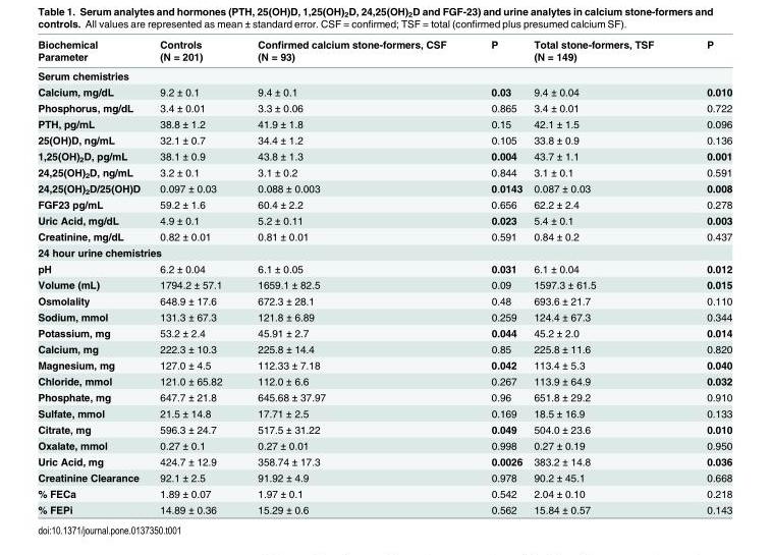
<table><thead><tr><td>Biochemical Parameter</td><td>Controls (N = 201)</td><td>Confirmed calcium stone-formers, CSF (N = 93)</td><td>P</td><td>Total stone-formers, TSF (N = 149)</td><td>P</td></tr></thead><tbody><tr><td colspan="6">Serum chemistries</td></tr><tr><td>Calcium, mg/dL</td><td>9.2 ± 0.1</td><td>9.4 ± 0.1</td><td>0.03</td><td>9.4 ± 0.04</td><td>0.010</td></tr><tr><td>Phosphorus, mg/dL</td><td>3.4 ± 0.01</td><td>3.3 ± 0.06</td><td>0.865</td><td>3.4 ± 0.01</td><td>0.722</td></tr><tr><td>PTH, pg/mL</td><td>38.8 ± 1.2</td><td>41.9 ± 1.8</td><td>0.15</td><td>42.1 ± 1.5</td><td>0.096</td></tr><tr><td>25(OH)D, ng/mL</td><td>32.1 ± 0.7</td><td>34.4 ± 1.2</td><td>0.105</td><td>33.8 ± 0.9</td><td>0.136</td></tr><tr><td>1,25(OH)<sub>2</sub>D, pg/mL</td><td>38.1 ± 0.9</td><td>43.8 ± 1.3</td><td>0.004</td><td>43.7 ± 1.1</td><td>0.001</td></tr><tr><td>24,25(OH)<sub>2</sub>D, ng/mL</td><td>3.2 ± 0.1</td><td>3.1 ± 0.2</td><td>0.844</td><td>3.1 ± 0.1</td><td>0.591</td></tr><tr><td>24,25(OH)<sub>2</sub>D/25(OH)D</td><td>0.097 ± 0.03</td><td>0.088 ± 0.003</td><td>0.0143</td><td>0.087 ± 0.03</td><td>0.008</td></tr><tr><td>FGF23 pg/mL</td><td>59.2 ± 1.6</td><td>60.4 ± 2.2</td><td>0.656</td><td>62.2 ± 2.4</td><td>0.278</td></tr><tr><td>Uric Acid, mg/dL</td><td>4.9 ± 0.1</td><td>5.2 ± 0.11</td><td>0.023</td><td>5.4 ± 0.1</td><td>0.003</td></tr><tr><td>Creatinine, mg/dL</td><td>0.82 ± 0.01</td><td>0.81 ± 0.01</td><td>0.591</td><td>0.84 ± 0.2</td><td>0.437</td></tr><tr><td colspan="6">24 hour urine chemistries</td></tr><tr><td>pH</td><td>6.2 ± 0.04</td><td>6.1 ± 0.05</td><td>0.031</td><td>6.1 ± 0.04</td><td>0.012</td></tr><tr><td>Volume (mL)</td><td>1794.2 ± 57.1</td><td>1659.1 ± 82.5</td><td>0.09</td><td>1597.3 ± 61.5</td><td>0.015</td></tr><tr><td>Osmolality</td><td>648.9 ± 17.6</td><td>672.3 ± 28.1</td><td>0.48</td><td>693.6 ± 21.7</td><td>0.110</td></tr><tr><td>Sodium, mmol</td><td>131.3 ± 67.3</td><td>121.8 ± 6.89</td><td>0.259</td><td>124.4 ± 67.3</td><td>0.344</td></tr><tr><td>Potassium, mg</td><td>53.2 ± 2.4</td><td>45.91 ± 2.7</td><td>0.044</td><td>45.2 ± 2.0</td><td>0.014</td></tr><tr><td>Calcium, mg</td><td>222.3 ± 10.3</td><td>225.8 ± 14.4</td><td>0.85</td><td>225.8 ± 11.6</td><td>0.820</td></tr><tr><td>Magnesium, mg</td><td>127.0 ± 4.5</td><td>112.33 ± 7.18</td><td>0.042</td><td>113.4 ± 5.3</td><td>0.040</td></tr><tr><td>Chloride, mmol</td><td>121.0 ± 65.82</td><td>112.0 ± 6.6</td><td>0.267</td><td>113.9 ± 64.9</td><td>0.032</td></tr><tr><td>Phosphate, mg</td><td>647.7 ± 21.8</td><td>645.68 ± 37.97</td><td>0.96</td><td>651.8 ± 29.2</td><td>0.910</td></tr><tr><td>Sulfate, mmol</td><td>21.5 ± 14.8</td><td>17.71 ± 2.5</td><td>0.169</td><td>18.5 ± 16.9</td><td>0.133</td></tr><tr><td>Citrate, mg</td><td>596.3 ± 24.7</td><td>517.5 ± 31.22</td><td>0.049</td><td>504.0 ± 23.6</td><td>0.010</td></tr><tr><td>Oxalate, mmol</td><td>0.27 ± 0.1</td><td>0.27 ± 0.01</td><td>0.998</td><td>0.27 ± 0.19</td><td>0.950</td></tr><tr><td>Uric Acid, mg</td><td>424.7 ± 12.9</td><td>358.74 ± 17.3</td><td>0.0026</td><td>383.2 ± 14.8</td><td>0.036</td></tr><tr><td>Creatinine Clearance</td><td>92.1 ± 2.5</td><td>91.92 ± 4.9</td><td>0.978</td><td>90.2 ± 45.1</td><td>0.668</td></tr><tr><td>% FECa</td><td>1.89 ± 0.07</td><td>1.97 ± 0.1</td><td>0.542</td><td>2.04 ± 0.10</td><td>0.218</td></tr><tr><td>% FEPi</td><td>14.89 ± 0.36</td><td>15.29 ± 0.6</td><td>0.562</td><td>15.84 ± 0.57</td><td>0.143</td></tr></tbody></table>